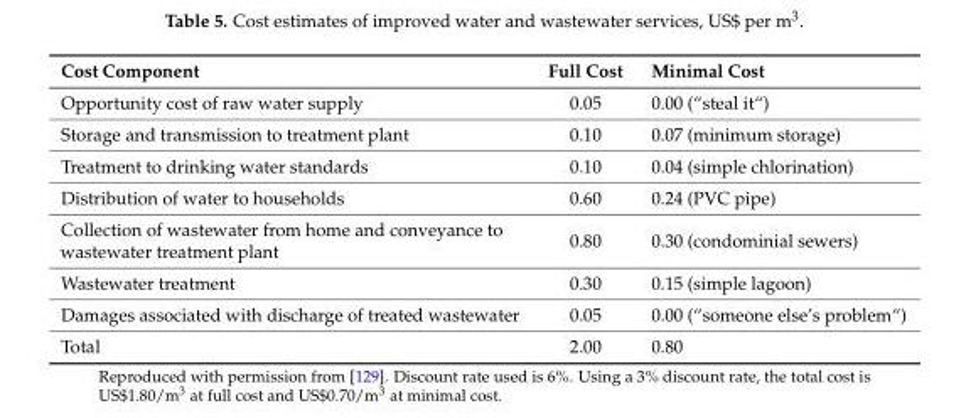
<table><thead><tr><td>Cost Component</td><td>Full Cost</td><td>Minimal Cost</td></tr></thead><tbody><tr><td>Opportunity cost of raw water supply</td><td>0.05</td><td>0.00 (“steal it“)</td></tr><tr><td>Storage and transmission to treatment plant</td><td>0.10</td><td>0.07 (minimum storage)</td></tr><tr><td>Treatment to drinking water standards</td><td>0.10</td><td>0.04 (simple chlorination)</td></tr><tr><td>Distribution of water to households</td><td>0.60</td><td>0.24 (PVC pipe)</td></tr><tr><td>Collection of wastewater from home and conveyance to wastewater treatment plant</td><td>0.80</td><td>0.30 (condominial sewers)</td></tr><tr><td>Wastewater treatment</td><td>0.30</td><td>0.15 (simple lagoon)</td></tr><tr><td>Damages associated with discharge of treated wastewater</td><td>0.05</td><td>0.00 (“someone else’s problem“)</td></tr><tr><td>Total</td><td>2.00</td><td>0.80</td></tr></tbody></table>